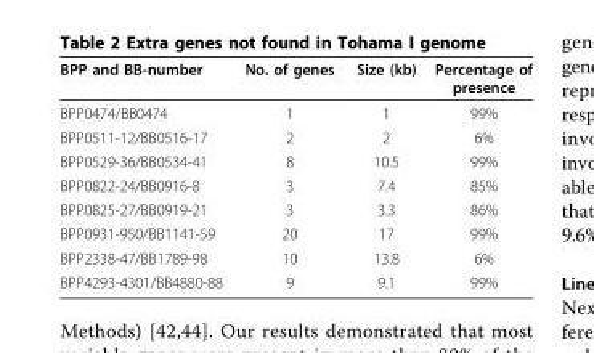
<table><thead><tr><td>BPP and BB-number</td><td>No. of genes</td><td>Size (kb)</td><td>Percentage of presence</td></tr></thead><tbody><tr><td>BPP0474/BB0474</td><td>1</td><td>1</td><td>99%</td></tr><tr><td>BPP0511-12/BB0516-17</td><td>2</td><td>2</td><td>6%</td></tr><tr><td>BPP0529-36/BB0534-41</td><td>8</td><td>10.5</td><td>99%</td></tr><tr><td>BPP0822-24/BB0916-8</td><td>3</td><td>7.4</td><td>85%</td></tr><tr><td>BPP0825-27/BB0919-21</td><td>3</td><td>3.3</td><td>86%</td></tr><tr><td>BPP0931-950/BB1141-59</td><td>20</td><td>17</td><td>99%</td></tr><tr><td>BPP2338-47/BB1789-98</td><td>10</td><td>13.8</td><td>6%</td></tr><tr><td>BPP4293-4301/BB4880-88</td><td>9</td><td>9.1</td><td>99%</td></tr></tbody></table>